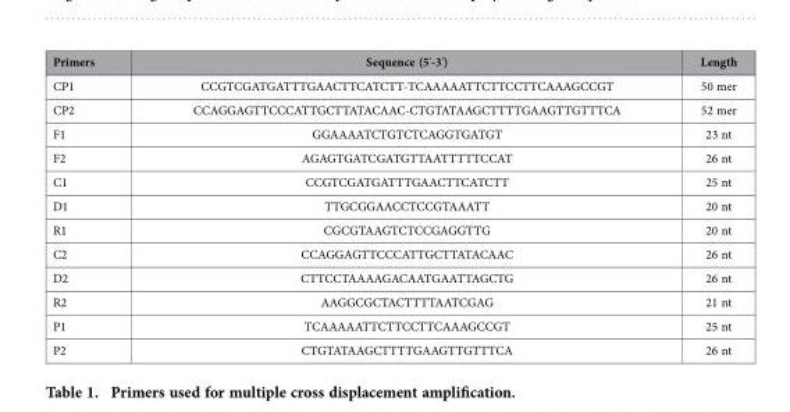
<table><thead><tr><td>Primers</td><td>Sequence (5&#x27;-3&#x27;)</td><td>Length</td></tr></thead><tbody><tr><td>CP1</td><td>CCGTCGATGATTTGAACTTCATCTT-TCAAAAATTCTTCCTTCAAAGCCGT</td><td>50 mer</td></tr><tr><td>CP2</td><td>CCAGGAGTTCCCATTGCTTATACAAC-CTGTATAAGCTTTTGAAGTTGTTTCA</td><td>52 mer</td></tr><tr><td>F1</td><td>GGAAAATCTGTCTCAGGTGATGT</td><td>23 nt</td></tr><tr><td>F2</td><td>AGAGTGATCGATGTTAATTTTTCCAT</td><td>26 nt</td></tr><tr><td>C1</td><td>CCGTCGATGATTTGAACTTCATCTT</td><td>25 nt</td></tr><tr><td>D1</td><td>TTGCGGAACCTCCGTAAATT</td><td>20 nt</td></tr><tr><td>R1</td><td>CGCGTAAGTCTCCGAGGTTG</td><td>20 nt</td></tr><tr><td>C2</td><td>CCAGGAGTTCCCATTGCTTATACAAC</td><td>26 nt</td></tr><tr><td>D2</td><td>CTTCCTAAAAGACAATGAATTAGCTG</td><td>26 nt</td></tr><tr><td>R2</td><td>AAGGCGCTACTTTTAATCGAG</td><td>21 nt</td></tr><tr><td>P1</td><td>TCAAAAATTCTTCCTTCAAAGCCGT</td><td>25 nt</td></tr><tr><td>P2</td><td>CTGTATAAGCTTTTGAAGTTGTTTCA</td><td>26 nt</td></tr></tbody></table>